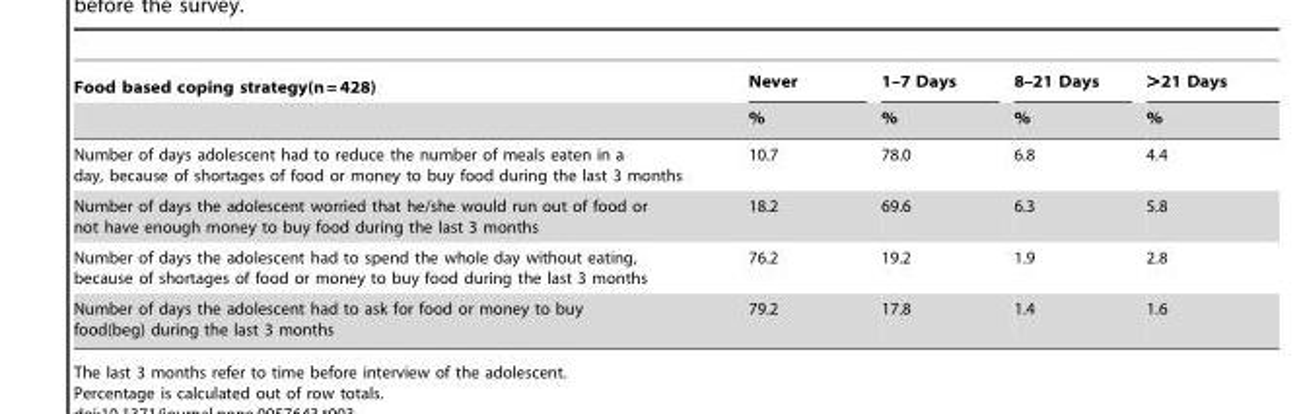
<table><thead><tr><td rowspan="2">Food based coping strategy(n = 428)</td><td rowspan="2">Never %</td><td rowspan="2">1–7 Days %</td><td rowspan="2">8–21 Days %</td><td rowspan="2">&gt;21 Days %</td></tr><tr></tr></thead><tbody><tr><td>Number of days adolescent had to reduce the number of meals eaten in a day, because of shortages of food or money to buy food during the last 3 months</td><td>10.7</td><td>78.0</td><td>6.8</td><td>4.4</td></tr><tr><td>Number of days the adolescent worried that he/she would run out of food or not have enough money to buy food during the last 3 months</td><td>18.2</td><td>69.6</td><td>6.3</td><td>5.8</td></tr><tr><td>Number of days the adolescent had to spend the whole day without eating, because of shortages of food or money to buy food during the last 3 months</td><td>76.2</td><td>19.2</td><td>1.9</td><td>2.8</td></tr><tr><td>Number of days the adolescent had to ask for food or money to buy food(beg) during the last 3 months</td><td>79.2</td><td>17.8</td><td>1.4</td><td>1.6</td></tr></tbody></table>